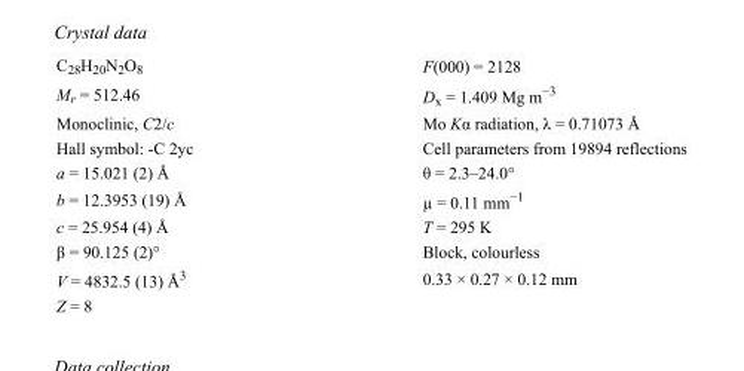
<table><tbody><tr><td>C<sub>28</sub>H<sub>20</sub>N<sub>2</sub>O<sub>8</sub></td><td>F(000) = 2128</td></tr><tr><td>M<sub>r</sub> = 512.46</td><td>D<sub>x</sub> = 1.409 Mg m<sup>−3</sup></td></tr><tr><td>Monoclinic, C2/c</td><td>Mo Kα radiation, λ = 0.71073 Å</td></tr><tr><td>Hall symbol: -C 2yc</td><td>Cell parameters from 19894 reflections</td></tr><tr><td>a = 15.021 (2) Å</td><td>θ = 2.3–24.0°</td></tr><tr><td>b = 12.3953 (19) Å</td><td>µ = 0.11 mm<sup>−1</sup></td></tr><tr><td>c = 25.954 (4) Å</td><td>T = 295 K</td></tr><tr><td>β = 90.125 (2)°</td><td>Block, colourless</td></tr><tr><td>V = 4832.5 (13) Å<sup>3</sup></td><td>0.33 × 0.27 × 0.12 mm</td></tr><tr><td>Z = 8</td><td></td></tr></tbody></table>